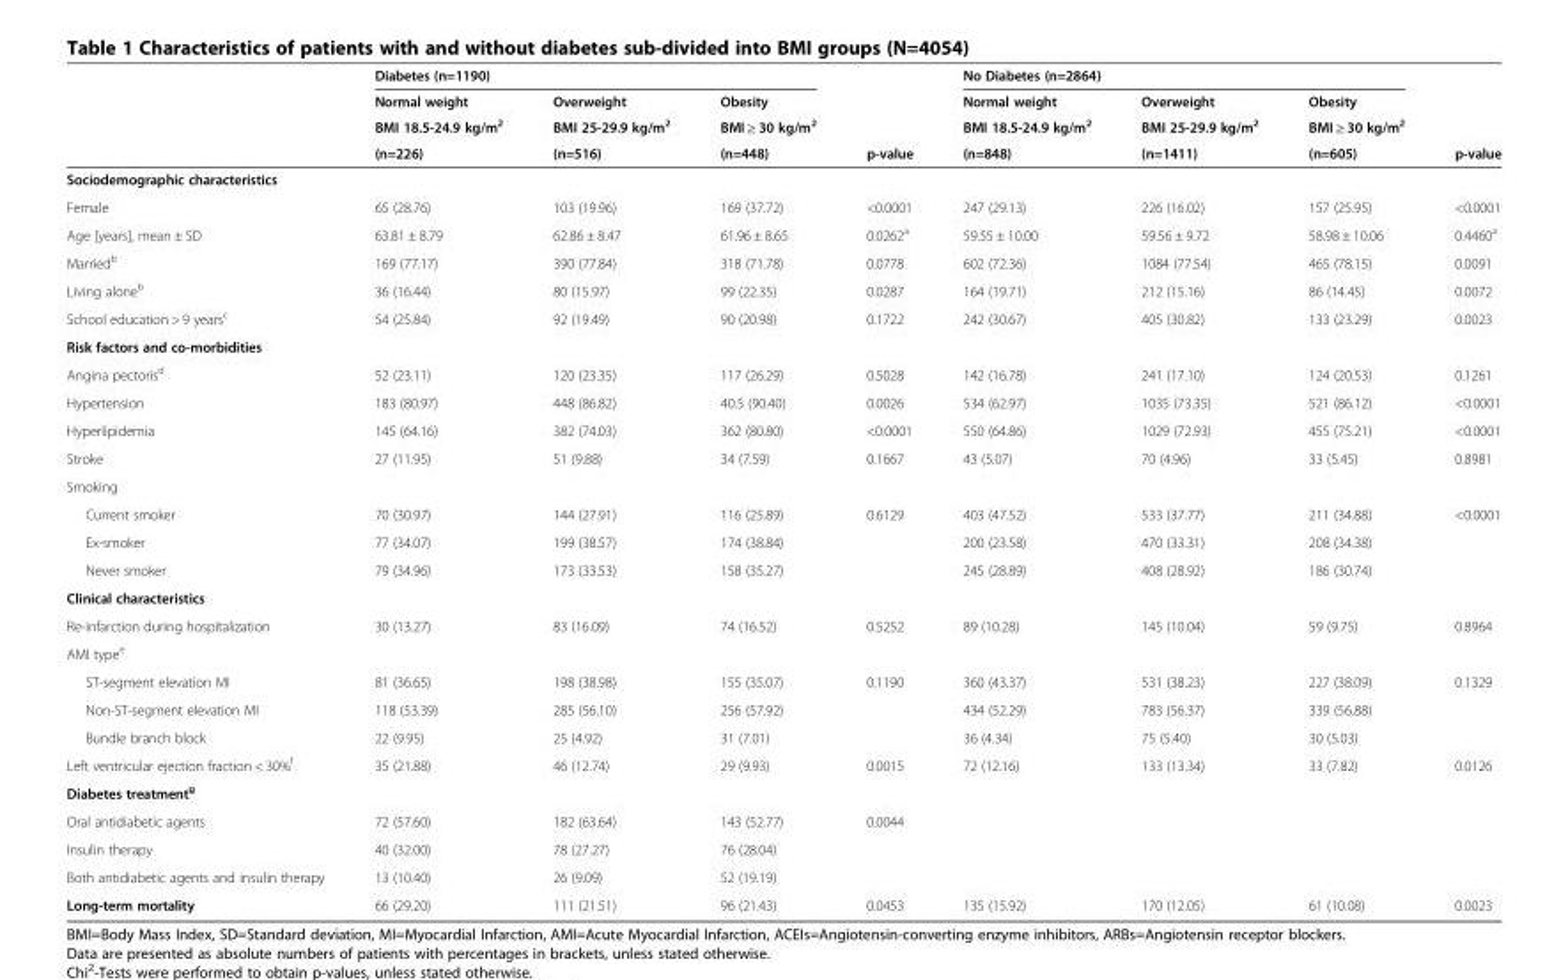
<table><thead><tr><td rowspan="4"></td><td colspan="3">Diabetes (n=1190)</td><td rowspan="4">p-value</td><td colspan="3">No Diabetes (n=2864)</td><td rowspan="4">p-value</td></tr><tr><td rowspan="3">Normal weight BMI 18.5-24.9 kg/m<sup>2</sup> (n=226)</td><td rowspan="3">Overweight BMI 25-29.9 kg/m<sup>2</sup> (n=516)</td><td rowspan="3">Obesity BMI ≥ 30 kg/m<sup>2</sup> (n=448)</td><td rowspan="3">Normal weight BMI 18.5-24.9 kg/m<sup>2</sup> (n=848)</td><td rowspan="3">Overweight BMI 25-29.9 kg/m<sup>2</sup> (n=1411)</td><td rowspan="3">Obesity BMI ≥ 30 kg/m<sup>2</sup> (n=605)</td></tr><tr></tr><tr></tr></thead><tbody><tr><td colspan="9">Sociodemographic characteristics</td></tr><tr><td>Female</td><td>65 (28.76)</td><td>103 (19.96)</td><td>169 (37.72)</td><td>&lt;0.0001</td><td>247 (29.13)</td><td>226 (16.02)</td><td>157 (25.95)</td><td>&lt;0.0001</td></tr><tr><td>Age [years], mean ± SD</td><td>63.81 ± 8.79</td><td>62.86 ± 8.47</td><td>61.96 ± 8.65</td><td>0.0262<sup>a</sup></td><td>59.55 ± 10.00</td><td>59.56 ± 9.72</td><td>58.98 ± 10.06</td><td>0.4460<sup>a</sup></td></tr><tr><td>Married<sup>b</sup></td><td>169 (77.17)</td><td>390 (77.84)</td><td>318 (71.78)</td><td>0.0778</td><td>602 (72.36)</td><td>1084 (77.54)</td><td>465 (78.15)</td><td>0.0091</td></tr><tr><td>Living alone<sup>b</sup></td><td>36 (16.44)</td><td>80 (15.97)</td><td>99 (22.35)</td><td>0.0287</td><td>164 (19.71)</td><td>212 (15.16)</td><td>86 (14.45)</td><td>0.0072</td></tr><tr><td>School education &gt; 9 years<sup>c</sup></td><td>54 (25.84)</td><td>92 (19.49)</td><td>90 (20.98)</td><td>0.1722</td><td>242 (30.67)</td><td>405 (30.82)</td><td>133 (23.29)</td><td>0.0023</td></tr><tr><td colspan="9">Risk factors and co-morbidities</td></tr><tr><td>Angina pectoris<sup>d</sup></td><td>52 (23.11)</td><td>120 (23.35)</td><td>117 (26.29)</td><td>0.5028</td><td>142 (16.78)</td><td>241 (17.10)</td><td>124 (20.53)</td><td>0.1261</td></tr><tr><td>Hypertension</td><td>183 (80.97)</td><td>448 (86.82)</td><td>40.5 (90.40)</td><td>0.0026</td><td>534 (62.97)</td><td>1035 (73.35)</td><td>521 (86.12)</td><td>&lt;0.0001</td></tr><tr><td>Hyperlipidemia</td><td>145 (64.16)</td><td>382 (74.03)</td><td>362 (80.80)</td><td>&lt;0.0001</td><td>550 (64.86)</td><td>1029 (72.93)</td><td>455 (75.21)</td><td>&lt;0.0001</td></tr><tr><td>Stroke</td><td>27 (11.95)</td><td>51 (9.88)</td><td>34 (7.59)</td><td>0.1667</td><td>43 (5.07)</td><td>70 (4.96)</td><td>33 (5.45)</td><td>0.8981</td></tr><tr><td colspan="9">Smoking</td></tr><tr><td>Current smoker</td><td>70 (30.97)</td><td>144 (27.91)</td><td>116 (25.89)</td><td>0.6129</td><td>403 (47.52)</td><td>533 (37.77)</td><td>211 (34.88)</td><td>&lt;0.0001</td></tr><tr><td>Ex-smoker</td><td>77 (34.07)</td><td>199 (38.57)</td><td>174 (38.84)</td><td></td><td>200 (23.58)</td><td>470 (33.31)</td><td>208 (34.38)</td><td></td></tr><tr><td>Never smoker</td><td>79 (34.96)</td><td>173 (33.53)</td><td>158 (35.27)</td><td></td><td>245 (28.89)</td><td>408 (28.92)</td><td>186 (30.74)</td><td></td></tr><tr><td colspan="9">Clinical characteristics</td></tr><tr><td>Re-infarction during hospitalization</td><td>30 (13.27)</td><td>83 (16.09)</td><td>74 (16.52)</td><td>0.5252</td><td>89 (10.28)</td><td>145 (10.04)</td><td>59 (9.75)</td><td>0.8964</td></tr><tr><td colspan="9">AMI type<sup>e</sup></td></tr><tr><td>ST-segment elevation MI</td><td>81 (36.65)</td><td>198 (38.98)</td><td>155 (35.07)</td><td>0.1190</td><td>360 (43.37)</td><td>531 (38.23)</td><td>227 (38.09)</td><td>0.1329</td></tr><tr><td>Non-ST-segment elevation MI</td><td>118 (53.39)</td><td>285 (56.10)</td><td>256 (57.92)</td><td></td><td>434 (52.29)</td><td>783 (56.37)</td><td>339 (56.88)</td><td></td></tr><tr><td>Bundle branch block</td><td>22 (9.95)</td><td>25 (4.92)</td><td>31 (7.01)</td><td></td><td>36 (4.34)</td><td>75 (5.40)</td><td>30 (5.03)</td><td></td></tr><tr><td>Left ventricular ejection fraction &lt; 30%<sup>f</sup></td><td>35 (21.88)</td><td>46 (12.74)</td><td>29 (9.93)</td><td>0.0015</td><td>72 (12.16)</td><td>133 (13.34)</td><td>33 (7.82)</td><td>0.0126</td></tr><tr><td colspan="9">Diabetes treatment<sup>g</sup></td></tr><tr><td>Oral antidiabetic agents</td><td>72 (57.60)</td><td>182 (63.64)</td><td>143 (52.77)</td><td>0.0044</td><td></td><td></td><td></td><td></td></tr><tr><td>Insulin therapy</td><td>40 (32.00)</td><td>78 (27.27)</td><td>76 (28.04)</td><td></td><td></td><td></td><td></td><td></td></tr><tr><td>Both antidiabetic agents and insulin therapy</td><td>13 (10.40)</td><td>26 (9.09)</td><td>52 (19.19)</td><td></td><td></td><td></td><td></td><td></td></tr><tr><td>Long-term mortality</td><td>66 (29.20)</td><td>111 (21.51)</td><td>96 (21.43)</td><td>0.0453</td><td>135 (15.92)</td><td>170 (12.05)</td><td>61 (10.08)</td><td>0.0023</td></tr></tbody></table>